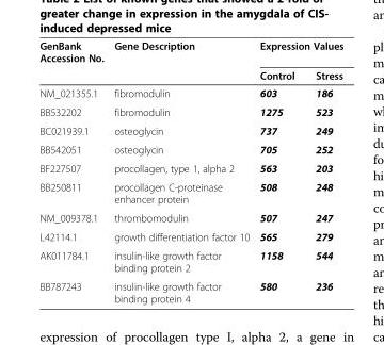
<table><thead><tr><td rowspan="2">GenBank Accession No.</td><td rowspan="2">Gene Description</td><td colspan="2">Expression Values</td></tr><tr><td>Control</td><td>Stress</td></tr></thead><tbody><tr><td>NM_021355.1</td><td>fibromodulin</td><td>603</td><td>186</td></tr><tr><td>BB532202</td><td>fibromodulin</td><td>1275</td><td>523</td></tr><tr><td>BC021939.1</td><td>osteoglycin</td><td>737</td><td>249</td></tr><tr><td>BB542051</td><td>osteoglycin</td><td>705</td><td>252</td></tr><tr><td>BF227507</td><td>procollagen, type 1, alpha 2</td><td>563</td><td>203</td></tr><tr><td>BB250811</td><td>procollagen C-proteinase enhancer protein</td><td>508</td><td>248</td></tr><tr><td>NM_009378.1</td><td>thrombomodulin</td><td>507</td><td>247</td></tr><tr><td>L42114.1</td><td>growth differentiation factor 10</td><td>565</td><td>279</td></tr><tr><td>AK011784.1</td><td>insulin-like growth factor binding protein 2</td><td>1158</td><td>544</td></tr><tr><td>BB787243</td><td>insulin-like growth factor binding protein 4</td><td>580</td><td>236</td></tr></tbody></table>